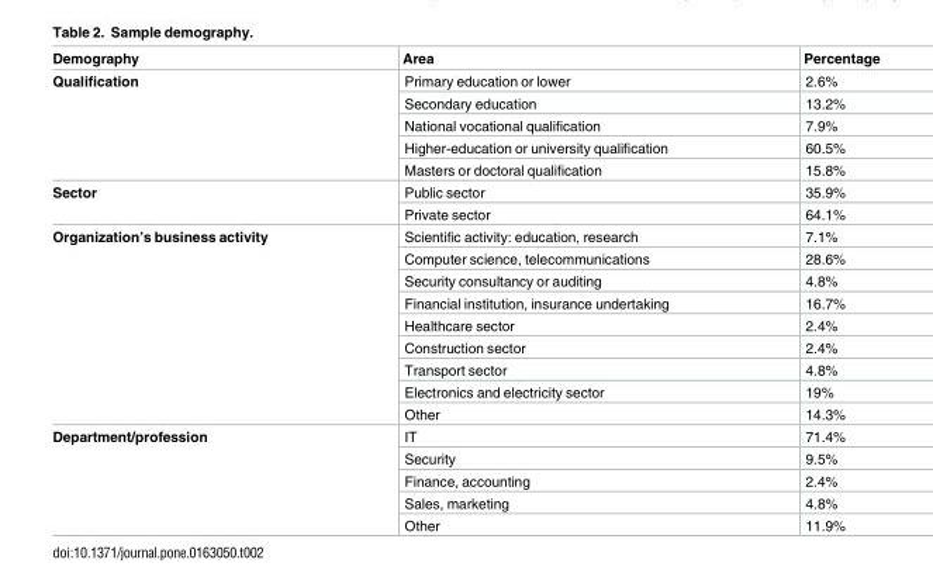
<table><thead><tr><td>Demography</td><td>Area</td><td>Percentage</td></tr></thead><tbody><tr><td rowspan="5">Qualification</td><td>Primary education or lower</td><td>2.6%</td></tr><tr><td>Secondary education</td><td>13.2%</td></tr><tr><td>National vocational qualification</td><td>7.9%</td></tr><tr><td>Higher-education or university qualification</td><td>60.5%</td></tr><tr><td>Masters or doctoral qualification</td><td>15.8%</td></tr><tr><td rowspan="2">Sector</td><td>Public sector</td><td>35.9%</td></tr><tr><td>Private sector</td><td>64.1%</td></tr><tr><td rowspan="9">Organization’s business activity</td><td>Scientific activity: education, research</td><td>7.1%</td></tr><tr><td>Computer science, telecommunications</td><td>28.6%</td></tr><tr><td>Security consultancy or auditing</td><td>4.8%</td></tr><tr><td>Financial institution, insurance undertaking</td><td>16.7%</td></tr><tr><td>Healthcare sector</td><td>2.4%</td></tr><tr><td>Construction sector</td><td>2.4%</td></tr><tr><td>Transport sector</td><td>4.8%</td></tr><tr><td>Electronics and electricity sector</td><td>19%</td></tr><tr><td>Other</td><td>14.3%</td></tr><tr><td rowspan="5">Department/profession</td><td>IT</td><td>71.4%</td></tr><tr><td>Security</td><td>9.5%</td></tr><tr><td>Finance, accounting</td><td>2.4%</td></tr><tr><td>Sales, marketing</td><td>4.8%</td></tr><tr><td>Other</td><td>11.9%</td></tr></tbody></table>